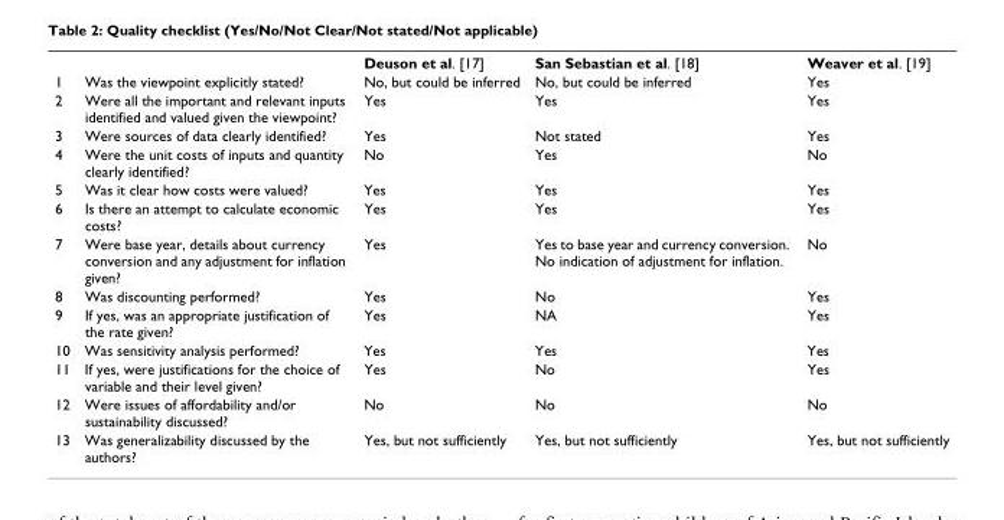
<table><thead><tr><td></td><td></td><td>Deuson et al. [17]</td><td>San Sebastian et al. [18]</td><td>Weaver et al. [19]</td></tr></thead><tbody><tr><td>1</td><td>Was the viewpoint explicitly stated?</td><td>No, but could be inferred</td><td>No, but could be inferred</td><td>Yes</td></tr><tr><td>2</td><td>Were all the important and relevant inputs identified and valued given the viewpoint?</td><td>Yes</td><td>Yes</td><td>Yes</td></tr><tr><td>3</td><td>Were sources of data clearly identified?</td><td>Yes</td><td>Not stated</td><td>Yes</td></tr><tr><td>4</td><td>Were the unit costs of inputs and quantity clearly identified?</td><td>No</td><td>Yes</td><td>No</td></tr><tr><td>5</td><td>Was it clear how costs were valued?</td><td>Yes</td><td>Yes</td><td>Yes</td></tr><tr><td>6</td><td>Is there an attempt to calculate economic costs?</td><td>Yes</td><td>Yes</td><td>Yes</td></tr><tr><td>7</td><td>Were base year, details about currency conversion and any adjustment for inflation given?</td><td>Yes</td><td>Yes to base year and currency conversion. No indication of adjustment for inflation.</td><td>No</td></tr><tr><td>8</td><td>Was discounting performed?</td><td>Yes</td><td>No</td><td>Yes</td></tr><tr><td>9</td><td>If yes, was an appropriate justification of the rate given?</td><td>Yes</td><td>NA</td><td>Yes</td></tr><tr><td>10</td><td>Was sensitivity analysis performed?</td><td>Yes</td><td>Yes</td><td>Yes</td></tr><tr><td>11</td><td>If yes, were justifications for the choice of variable and their level given?</td><td>Yes</td><td>No</td><td>Yes</td></tr><tr><td>12</td><td>Were issues of affordability and/or sustainability discussed?</td><td>No</td><td>No</td><td>No</td></tr><tr><td>13</td><td>Was generalizability discussed by the authors?</td><td>Yes, but not sufficiently</td><td>Yes, but not sufficiently</td><td>Yes, but not sufficiently</td></tr></tbody></table>